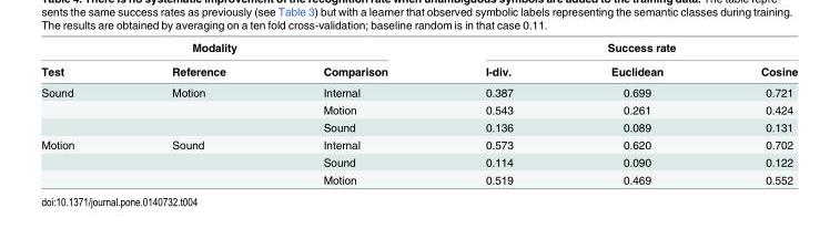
<table><thead><tr><td colspan="3">Modality</td><td colspan="3">Success rate</td></tr><tr><td>Test</td><td>Reference</td><td>Comparison</td><td>I-div.</td><td>Euclidean</td><td>Cosine</td></tr></thead><tbody><tr><td rowspan="3">Sound</td><td>Motion</td><td>Internal</td><td>0.387</td><td>0.699</td><td>0.721</td></tr><tr><td></td><td>Motion</td><td>0.543</td><td>0.261</td><td>0.424</td></tr><tr><td></td><td>Sound</td><td>0.136</td><td>0.089</td><td>0.131</td></tr><tr><td rowspan="3">Motion</td><td>Sound</td><td>Internal</td><td>0.573</td><td>0.620</td><td>0.702</td></tr><tr><td></td><td>Sound</td><td>0.114</td><td>0.090</td><td>0.122</td></tr><tr><td></td><td>Motion</td><td>0.519</td><td>0.469</td><td>0.552</td></tr></tbody></table>